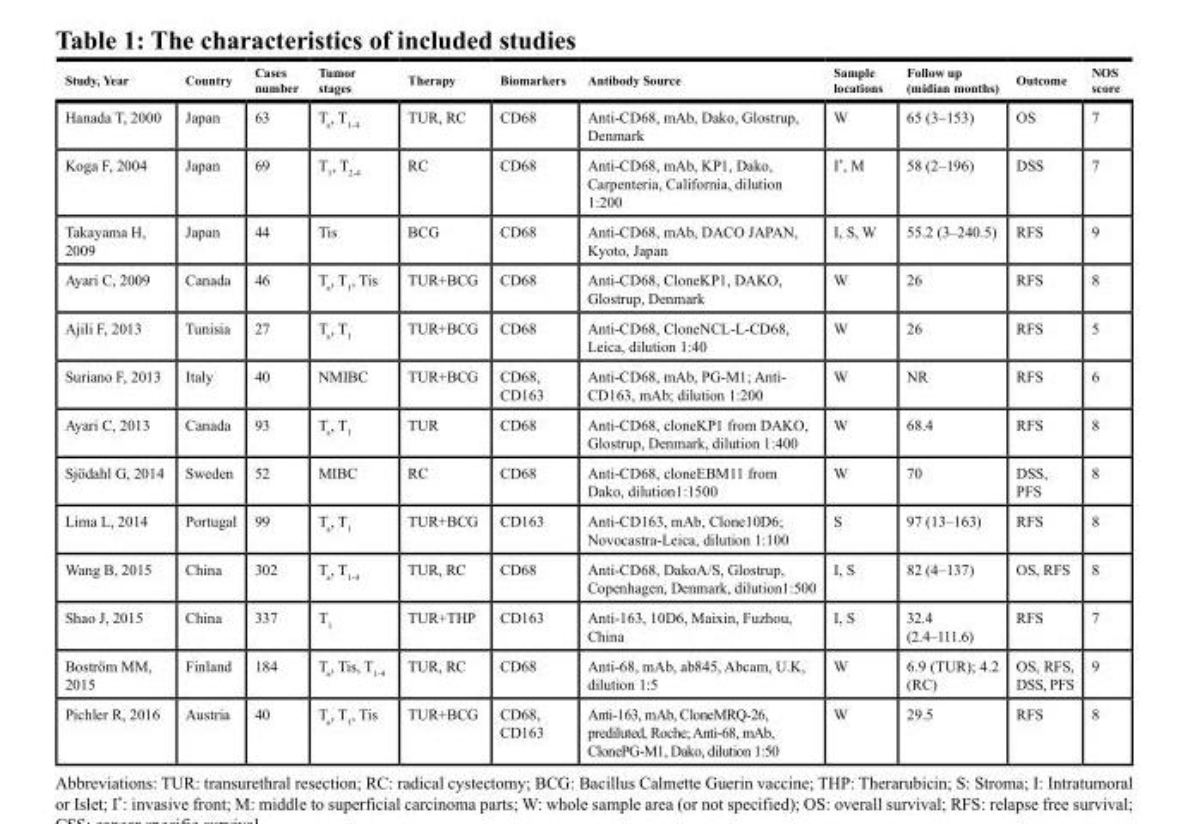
<table><thead><tr><td>Study, Year</td><td>Country</td><td>Cases number</td><td>Tumor stages</td><td>Therapy</td><td>Biomarkers</td><td>Antibody Source</td><td>Sample locations</td><td>Follow up (midian months)</td><td>Outcome</td><td>NOS score</td></tr></thead><tbody><tr><td>Hanada T, 2000</td><td>Japan</td><td>63</td><td>T<sub>a</sub>, T<sub>1-4</sub></td><td>TUR, RC</td><td>CD68</td><td>Anti-CD68, mAb, Dako, Glostrup, Denmark</td><td>W</td><td>65 (3–153)</td><td>OS</td><td>7</td></tr><tr><td>Koga F, 2004</td><td>Japan</td><td>69</td><td>T<sub>1</sub>, T<sub>2-4</sub></td><td>RC</td><td>CD68</td><td>Anti-CD68, mAb, KP1, Dako, Carpenteria, California, dilution 1:200</td><td>I*, M</td><td>58 (2–196)</td><td>DSS</td><td>7</td></tr><tr><td>Takayama H, 2009</td><td>Japan</td><td>44</td><td>Tis</td><td>BCG</td><td>CD68</td><td>Anti-CD68, mAb, DACO JAPAN, Kyoto, Japan</td><td>I, S, W</td><td>55.2 (3–240.5)</td><td>RFS</td><td>9</td></tr><tr><td>Ayari C, 2009</td><td>Canada</td><td>46</td><td>T<sub>a</sub>, T<sub>1</sub>, Tis</td><td>TUR+BCG</td><td>CD68</td><td>Anti-CD68, CloneKP1, DAKO, Glostrup, Denmark</td><td>W</td><td>26</td><td>RFS</td><td>8</td></tr><tr><td>Ajili F, 2013</td><td>Tunisia</td><td>27</td><td>T<sub>a</sub>, T<sub>1</sub></td><td>TUR+BCG</td><td>CD68</td><td>Anti-CD68, CloneNCL-L-CD68, Leica, dilution 1:40</td><td>W</td><td>26</td><td>RFS</td><td>5</td></tr><tr><td>Suriano F, 2013</td><td>Italy</td><td>40</td><td>NMIBC</td><td>TUR+BCG</td><td>CD68, CD163</td><td>Anti-CD68, mAb, PG-M1; Anti- CD163, mAb; dilution 1:200</td><td>W</td><td>NR</td><td>RFS</td><td>6</td></tr><tr><td>Ayari C, 2013</td><td>Canada</td><td>93</td><td>T<sub>a</sub>, T<sub>1</sub></td><td>TUR</td><td>CD68</td><td>Anti-CD68, cloneKP1 from DAKO, Glostrup, Denmark, dilution 1:400</td><td>W</td><td>68.4</td><td>RFS</td><td>8</td></tr><tr><td>Sjödahl G, 2014</td><td>Sweden</td><td>52</td><td>MIBC</td><td>RC</td><td>CD68</td><td>Anti-CD68, cloneEBM11 from Dako, dilution1:1500</td><td>W</td><td>70</td><td>DSS, PFS</td><td>8</td></tr><tr><td>Lima L, 2014</td><td>Portugal</td><td>99</td><td>T<sub>a</sub>, T<sub>1</sub></td><td>TUR+BCG</td><td>CD163</td><td>Anti-CD163, mAb, Clone10D6; Novocastra-Leica, dilution 1:100</td><td>S</td><td>97 (13–163)</td><td>RFS</td><td>8</td></tr><tr><td>Wang B, 2015</td><td>China</td><td>302</td><td>T<sub>a</sub>, T<sub>1-4</sub></td><td>TUR, RC</td><td>CD68</td><td>Anti-CD68, DakoA/S, Glostrup, Copenhagen, Denmark, dilution1:500</td><td>I, S</td><td>82 (4–137)</td><td>OS, RFS</td><td>8</td></tr><tr><td>Shao J, 2015</td><td>China</td><td>337</td><td>T<sub>1</sub></td><td>TUR+THP</td><td>CD163</td><td>Anti-163, 10D6, Maixin, Fuzhou, China</td><td>I, S</td><td>32.4 (2.4–111.6)</td><td>RFS</td><td>7</td></tr><tr><td>Boström MM, 2015</td><td>Finland</td><td>184</td><td>T<sub>a</sub>, Tis, T<sub>1-4</sub></td><td>TUR, RC</td><td>CD68</td><td>Anti-68, mAb, ab845, Abcam, U.K, dilution 1:5</td><td>W</td><td>6.9 (TUR); 4.2 (RC)</td><td>OS, RFS, DSS, PFS</td><td>9</td></tr><tr><td>Pichler R, 2016</td><td>Austria</td><td>40</td><td>T<sub>a</sub>, T<sub>1</sub>, Tis</td><td>TUR+BCG</td><td>CD68, CD163</td><td>Anti-163, mAb, CloneMRQ-26, prediluted, Roche; Anti-68, mAb, ClonePG-M1, Dako, dilution 1:50</td><td>W</td><td>29.5</td><td>RFS</td><td>8</td></tr></tbody></table>